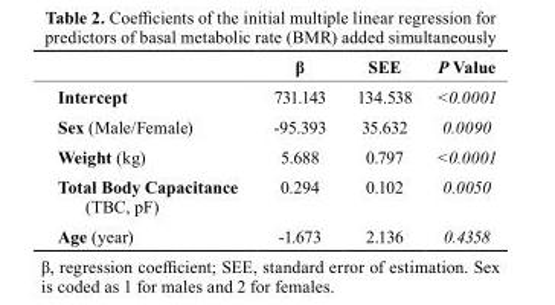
<table><thead><tr><td></td><td>β</td><td>sEE</td><td>P Value</td></tr></thead><tbody><tr><td>Intercept</td><td>731.143</td><td>134.538</td><td>&lt;0.0001</td></tr><tr><td>sex (Male/Female)</td><td>-95.393</td><td>35.632</td><td>0.0090</td></tr><tr><td>Weight (kg)</td><td>5.688</td><td>0.797</td><td>&lt;0.0001</td></tr><tr><td>total body capacitance (TBC, pF)</td><td>0.294</td><td>0.102</td><td>0.0050</td></tr><tr><td>Age (year)</td><td>-1.673</td><td>2.136</td><td>0.4358</td></tr></tbody></table>